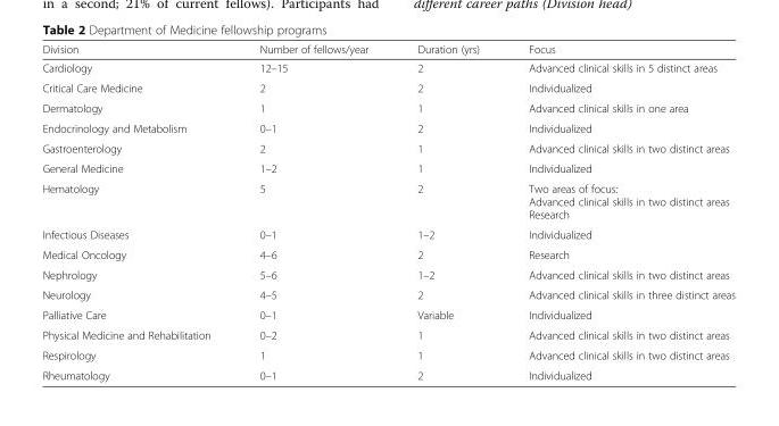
<table><thead><tr><td>Division</td><td>Number of fellows/year</td><td>Duration (yrs)</td><td>Focus</td></tr></thead><tbody><tr><td>Cardiology</td><td>12–15</td><td>2</td><td>Advanced clinical skills in 5 distinct areas</td></tr><tr><td>Critical Care Medicine</td><td>2</td><td>2</td><td>Individualized</td></tr><tr><td>Dermatology</td><td>1</td><td>1</td><td>Advanced clinical skills in one area</td></tr><tr><td>Endocrinology and Metabolism</td><td>0–1</td><td>2</td><td>Individualized</td></tr><tr><td>Gastroenterology</td><td>2</td><td>1</td><td>Advanced clinical skills in two distinct areas</td></tr><tr><td>General Medicine</td><td>1–2</td><td>1</td><td>Individualized</td></tr><tr><td>Hematology</td><td>5</td><td>2</td><td>Two areas of focus: Advanced clinical skills in two distinct areas Research</td></tr><tr><td>Infectious Diseases</td><td>0–1</td><td>1–2</td><td>Individualized</td></tr><tr><td>Medical Oncology</td><td>4–6</td><td>2</td><td>Research</td></tr><tr><td>Nephrology</td><td>5–6</td><td>1–2</td><td>Advanced clinical skills in two distinct areas</td></tr><tr><td>Neurology</td><td>4–5</td><td>2</td><td>Advanced clinical skills in three distinct areas</td></tr><tr><td>Palliative Care</td><td>0–1</td><td>Variable</td><td>Individualized</td></tr><tr><td>Physical Medicine and Rehabilitation</td><td>0–2</td><td>1</td><td>Advanced clinical skills in two distinct areas</td></tr><tr><td>Respirology</td><td>1</td><td>1</td><td>Advanced clinical skills in two distinct areas</td></tr><tr><td>Rheumatology</td><td>0–1</td><td>2</td><td>Individualized</td></tr></tbody></table>